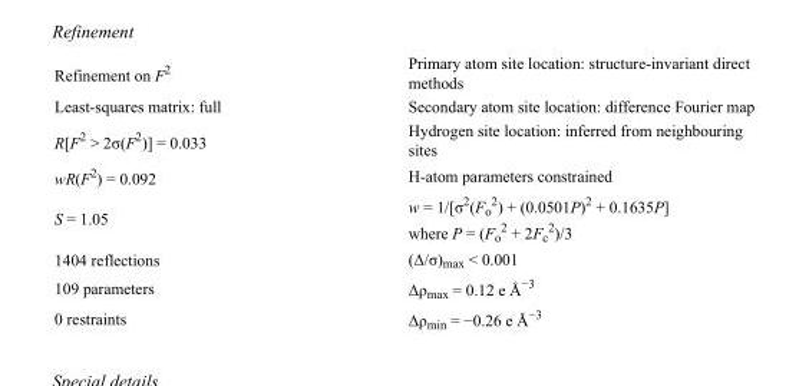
<table><tbody><tr><td>Refinement on F<sup>2</sup></td><td>Primary atom site location: structure-invariant direct methods</td></tr><tr><td>Least-squares matrix: full</td><td>Secondary atom site location: difference Fourier map</td></tr><tr><td>R[F<sup>2</sup> &gt; 2σ(F<sup>2</sup>)] = 0.033</td><td>Hydrogen site location: inferred from neighbouring sites</td></tr><tr><td>wR(F<sup>2</sup>) = 0.092</td><td>H-atom parameters constrained</td></tr><tr><td>S = 1.05</td><td>w = 1/[σ<sup>2</sup>(F<sub>o</sub> <sup>2</sup>) + (0.0501P)<sup>2</sup> + 0.1635P] where P = (F<sub>o</sub> <sup>2</sup> + 2F<sub>c</sub> <sup>2</sup>)/3</td></tr><tr><td>1404 reflections</td><td>(Δ/σ)<sub>max</sub> &lt; 0.001</td></tr><tr><td>109 parameters</td><td>Δρ<sub>max</sub> = 0.12 e Å<sup>−3</sup></td></tr><tr><td>0 restraints</td><td>Δρ<sub>min</sub> = −0.26 e Å<sup>−3</sup></td></tr></tbody></table>